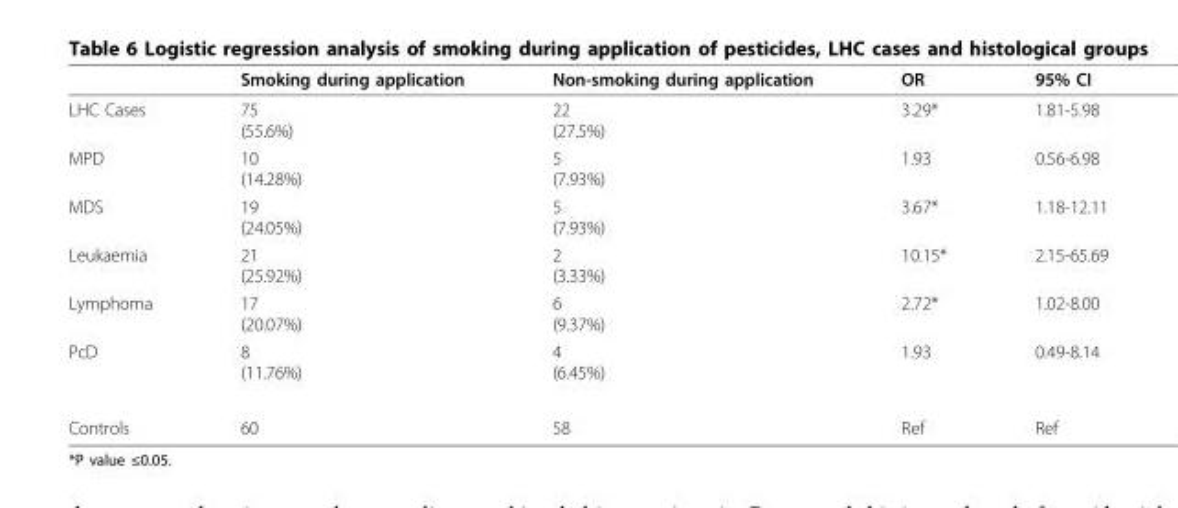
<table><thead><tr><td></td><td>Smoking during application</td><td>Non-smoking during application</td><td>OR</td><td>95% CI</td></tr></thead><tbody><tr><td>LHC Cases</td><td>75 (55.6%)</td><td>22 (27.5%)</td><td>3.29*</td><td>1.81-5.98</td></tr><tr><td>MPD</td><td>10 (14.28%)</td><td>5 (7.93%)</td><td>1.93</td><td>0.56-6.98</td></tr><tr><td>MDS</td><td>19 (24.05%)</td><td>5 (7.93%)</td><td>3.67*</td><td>1.18-12.11</td></tr><tr><td>Leukaemia</td><td>21 (25.92%)</td><td>2 (3.33%)</td><td>10.15*</td><td>2.15-65.69</td></tr><tr><td>Lymphoma</td><td>17 (20.07%)</td><td>6 (9.37%)</td><td>2.72*</td><td>1.02-8.00</td></tr><tr><td>PcD</td><td>8 (11.76%)</td><td>4 (6.45%)</td><td>1.93</td><td>0.49-8.14</td></tr><tr><td>Controls</td><td>60</td><td>58</td><td>Ref</td><td>Ref</td></tr></tbody></table>